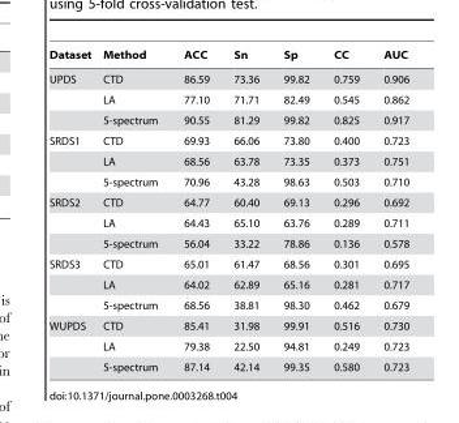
<table><thead><tr><td>Dataset</td><td>Method</td><td>ACC</td><td>Sn</td><td>Sp</td><td>CC</td><td>AUC</td></tr></thead><tbody><tr><td rowspan="3">UPDS</td><td>CTD</td><td>86.59</td><td>73.36</td><td>99.82</td><td>0.759</td><td>0.906</td></tr><tr><td>LA</td><td>77.10</td><td>71.71</td><td>82.49</td><td>0.545</td><td>0.862</td></tr><tr><td>5-spectrum</td><td>90.55</td><td>81.29</td><td>99.82</td><td>0.825</td><td>0.917</td></tr><tr><td rowspan="3">SRDS1</td><td>CTD</td><td>69.93</td><td>66.06</td><td>73.80</td><td>0.400</td><td>0.723</td></tr><tr><td>LA</td><td>68.56</td><td>63.78</td><td>73.35</td><td>0.373</td><td>0.751</td></tr><tr><td>5-spectrum</td><td>70.96</td><td>43.28</td><td>98.63</td><td>0.503</td><td>0.710</td></tr><tr><td rowspan="3">SRDS2</td><td>CTD</td><td>64.77</td><td>60.40</td><td>69.13</td><td>0.296</td><td>0.692</td></tr><tr><td>LA</td><td>64.43</td><td>65.10</td><td>63.76</td><td>0.289</td><td>0.711</td></tr><tr><td>5-spectrum</td><td>56.04</td><td>33.22</td><td>78.86</td><td>0.136</td><td>0.578</td></tr><tr><td rowspan="3">SRDS3</td><td>CTD</td><td>65.01</td><td>61.47</td><td>68.56</td><td>0.301</td><td>0.695</td></tr><tr><td>LA</td><td>64.02</td><td>62.89</td><td>65.16</td><td>0.281</td><td>0.717</td></tr><tr><td>5-spectrum</td><td>68.56</td><td>38.81</td><td>98.30</td><td>0.462</td><td>0.679</td></tr><tr><td rowspan="3">WUPDS</td><td>CTD</td><td>85.41</td><td>31.98</td><td>99.91</td><td>0.516</td><td>0.730</td></tr><tr><td>LA</td><td>79.38</td><td>22.50</td><td>94.81</td><td>0.249</td><td>0.723</td></tr><tr><td>5-spectrum</td><td>87.14</td><td>42.14</td><td>99.35</td><td>0.580</td><td>0.723</td></tr></tbody></table>